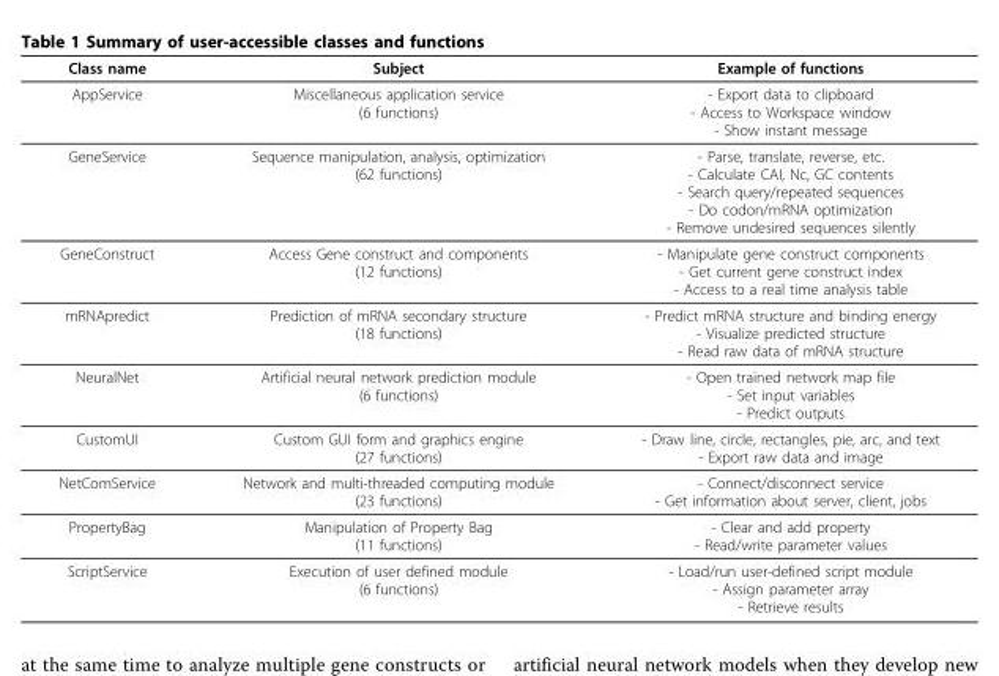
<table><thead><tr><td>Class name</td><td>Subject</td><td>Example of functions</td></tr></thead><tbody><tr><td>AppService</td><td>Miscellaneous application service (6 functions)</td><td>- Export data to clipboard - Access to Workspace window - Show instant message</td></tr><tr><td>GeneService</td><td>Sequence manipulation, analysis, optimization (62 functions)</td><td>- Parse, translate, reverse, etc. - Calculate CAI, Nc, GC contents - Search query/repeated sequences - Do codon/mRNA optimization - Remove undesired sequences silently</td></tr><tr><td>GeneConstruct</td><td>Access Gene construct and components (12 functions)</td><td>- Manipulate gene construct components - Get current gene construct index - Access to a real time analysis table</td></tr><tr><td>mRNApredict</td><td>Prediction of mRNA secondary structure (18 functions)</td><td>- Predict mRNA structure and binding energy - Visualize predicted structure - Read raw data of mRNA structure</td></tr><tr><td>NeuralNet</td><td>Artificial neural network prediction module (6 functions)</td><td>- Open trained network map file - Set input variables - Predict outputs</td></tr><tr><td>CustomUI</td><td>Custom GUI form and graphics engine (27 functions)</td><td>- Draw line, circle, rectangles, pie, arc, and text - Export raw data and image</td></tr><tr><td>NetComService</td><td>Network and multi-threaded computing module (23 functions)</td><td>- Connect/disconnect service - Get information about server, client, jobs</td></tr><tr><td>PropertyBag</td><td>Manipulation of Property Bag (11 functions)</td><td>- Clear and add property - Read/write parameter values</td></tr><tr><td>ScriptService</td><td>Execution of user defined module (6 functions)</td><td>- Load/run user-defined script module - Assign parameter array - Retrieve results</td></tr></tbody></table>